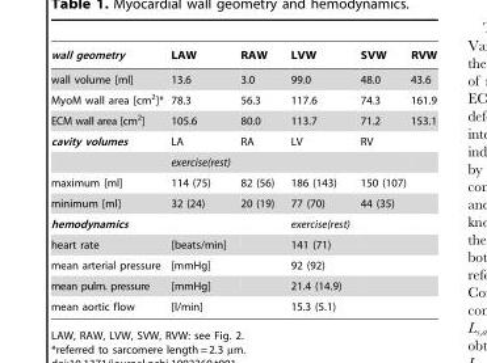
<table><thead><tr><td>wall geometry</td><td>LAW</td><td>RAW</td><td>LVW</td><td>SVW</td><td>RVW</td></tr></thead><tbody><tr><td>wall volume [ml]</td><td>13.6</td><td>3.0</td><td>99.0</td><td>48.0</td><td>43.6</td></tr><tr><td>MyoM wall area [cm<sup>2</sup>]*</td><td>78.3</td><td>56.3</td><td>117.6</td><td>74.3</td><td>161.9</td></tr><tr><td>ECM wall area [cm<sup>2</sup>]</td><td>105.6</td><td>80.0</td><td>113.7</td><td>71.2</td><td>153.1</td></tr><tr><td rowspan="2">cavity volumes</td><td>LA</td><td>RA</td><td>LV</td><td>RV</td><td></td></tr><tr><td colspan="4">exercise(rest)</td><td></td></tr><tr><td>maximum [ml]</td><td>114 (75)</td><td>82 (56)</td><td>186 (143)</td><td>150 (107)</td><td></td></tr><tr><td>minimum [ml]</td><td>32 (24)</td><td>20 (19)</td><td>77 (70)</td><td>44 (35)</td><td></td></tr><tr><td colspan="3">hemodynamics</td><td colspan="3">exercise(rest)</td></tr><tr><td>heart rate</td><td>[beats/min]</td><td></td><td>141 (71)</td><td></td><td></td></tr><tr><td>mean arterial pressure</td><td>[mmHg]</td><td></td><td>92 (92)</td><td></td><td></td></tr><tr><td>mean pulm. pressure</td><td>[mmHg]</td><td></td><td>21.4 (14.9)</td><td></td><td></td></tr><tr><td>mean aortic flow</td><td>[l/min]</td><td></td><td>15.3 (5.1)</td><td></td><td></td></tr></tbody></table>